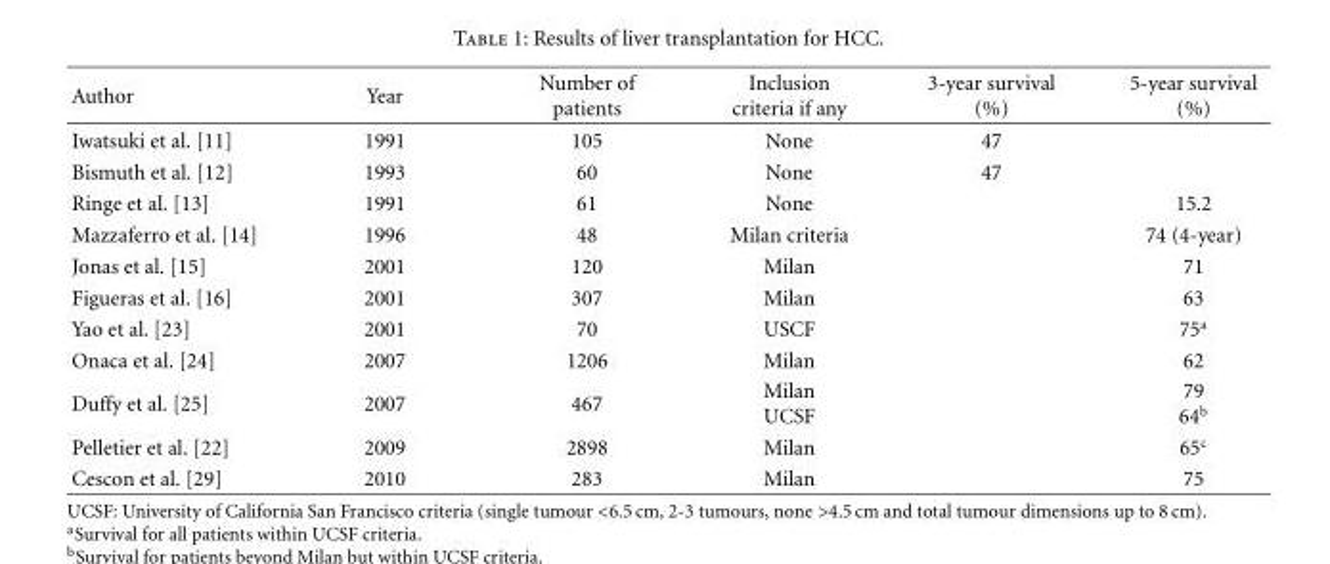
<table><thead><tr><td>Author</td><td>Year</td><td>Number of patients</td><td>Inclusion criteria if any</td><td>3-year survival (%)</td><td>5-year survival (%)</td></tr></thead><tbody><tr><td>Iwatsuki et al. [11]</td><td>1991</td><td>105</td><td>None</td><td>47</td><td></td></tr><tr><td>Bismuth et al. [12]</td><td>1993</td><td>60</td><td>None</td><td>47</td><td></td></tr><tr><td>Ringe et al. [13]</td><td>1991</td><td>61</td><td>None</td><td></td><td>15.2</td></tr><tr><td>Mazzaferro et al. [14]</td><td>1996</td><td>48</td><td>Milan criteria</td><td></td><td>74 (4-year)</td></tr><tr><td>Jonas et al. [15]</td><td>2001</td><td>120</td><td>Milan</td><td></td><td>71</td></tr><tr><td>Figueras et al. [16]</td><td>2001</td><td>307</td><td>Milan</td><td></td><td>63</td></tr><tr><td>Yao et al. [23]</td><td>2001</td><td>70</td><td>USCF</td><td></td><td>75<sup>a</sup></td></tr><tr><td>Onaca et al. [24]</td><td>2007</td><td>1206</td><td>Milan</td><td></td><td>62</td></tr><tr><td>Duffy et al. [25]</td><td>2007</td><td>467</td><td>Milan UCSF</td><td></td><td>79 64<sup>b</sup></td></tr><tr><td>Pelletier et al. [22]</td><td>2009</td><td>2898</td><td>Milan</td><td></td><td>65<sup>c</sup></td></tr><tr><td>Cescon et al. [29]</td><td>2010</td><td>283</td><td>Milan</td><td></td><td>75</td></tr></tbody></table>